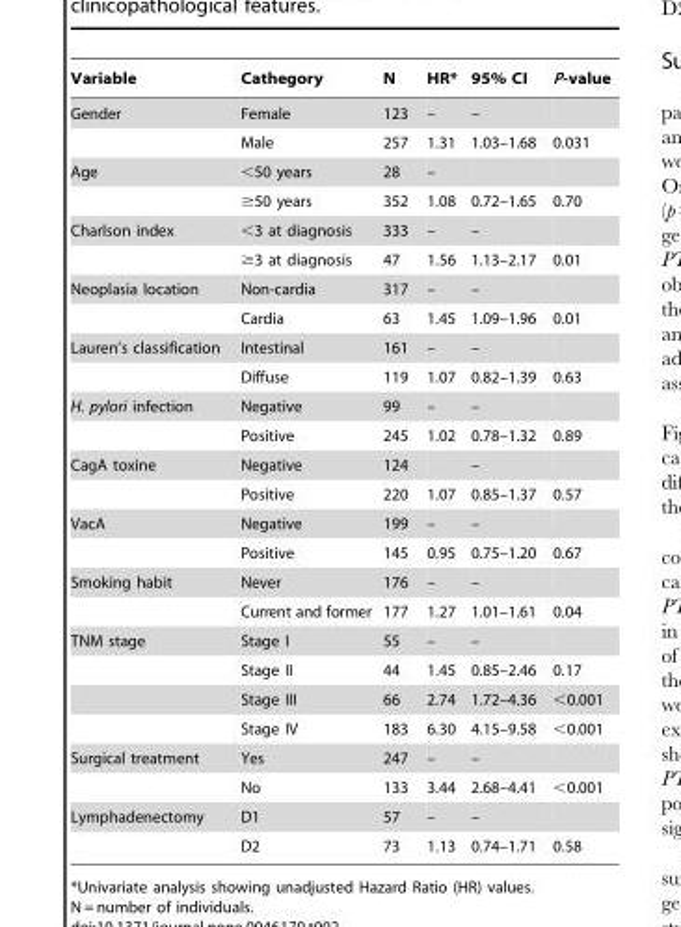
<table><thead><tr><td>Variable</td><td>Cathegory</td><td>N</td><td>HR*</td><td>95% CI</td><td>P-value</td></tr></thead><tbody><tr><td rowspan="2">Gender</td><td>Female</td><td>123</td><td>–</td><td>–</td><td></td></tr><tr><td>Male</td><td>257</td><td>1.31</td><td>1.03–1.68</td><td>0.031</td></tr><tr><td rowspan="2">Age</td><td>&lt;50 years</td><td>28</td><td>–</td><td></td><td></td></tr><tr><td>≥50 years</td><td>352</td><td>1.08</td><td>0.72–1.65</td><td>0.70</td></tr><tr><td rowspan="2">Charlson index</td><td>&lt;3 at diagnosis</td><td>333</td><td>–</td><td>–</td><td></td></tr><tr><td>≥3 at diagnosis</td><td>47</td><td>1.56</td><td>1.13–2.17</td><td>0.01</td></tr><tr><td rowspan="2">Neoplasia location</td><td>Non-cardia</td><td>317</td><td>–</td><td>–</td><td></td></tr><tr><td>Cardia</td><td>63</td><td>1.45</td><td>1.09–1.96</td><td>0.01</td></tr><tr><td rowspan="2">Lauren’s classification</td><td>Intestinal</td><td>161</td><td>–</td><td>–</td><td></td></tr><tr><td>Diffuse</td><td>119</td><td>1.07</td><td>0.82–1.39</td><td>0.63</td></tr><tr><td rowspan="2">H. pylori infection</td><td>Negative</td><td>99</td><td>–</td><td>–</td><td></td></tr><tr><td>Positive</td><td>245</td><td>1.02</td><td>0.78–1.32</td><td>0.89</td></tr><tr><td rowspan="2">CagA toxine</td><td>Negative</td><td>124</td><td></td><td>–</td><td></td></tr><tr><td>Positive</td><td>220</td><td>1.07</td><td>0.85–1.37</td><td>0.57</td></tr><tr><td rowspan="2">VacA</td><td>Negative</td><td>199</td><td>–</td><td>–</td><td></td></tr><tr><td>Positive</td><td>145</td><td>0.95</td><td>0.75–1.20</td><td>0.67</td></tr><tr><td rowspan="2">Smoking habit</td><td>Never</td><td>176</td><td>–</td><td>–</td><td></td></tr><tr><td>Current and former</td><td>177</td><td>1.27</td><td>1.01–1.61</td><td>0.04</td></tr><tr><td rowspan="4">TNM stage</td><td>Stage I</td><td>55</td><td>–</td><td>–</td><td></td></tr><tr><td>Stage II</td><td>44</td><td>1.45</td><td>0.85–2.46</td><td>0.17</td></tr><tr><td>Stage III</td><td>66</td><td>2.74</td><td>1.72–4.36</td><td>&lt;0.001</td></tr><tr><td>Stage IV</td><td>183</td><td>6.30</td><td>4.15–9.58</td><td>&lt;0.001</td></tr><tr><td rowspan="2">Surgical treatment</td><td>Yes</td><td>247</td><td>–</td><td>–</td><td></td></tr><tr><td>No</td><td>133</td><td>3.44</td><td>2.68–4.41</td><td>&lt;0.001</td></tr><tr><td rowspan="2">Lymphadenectomy</td><td>D1</td><td>57</td><td>–</td><td>–</td><td></td></tr><tr><td>D2</td><td>73</td><td>1.13</td><td>0.74–1.71</td><td>0.58</td></tr></tbody></table>